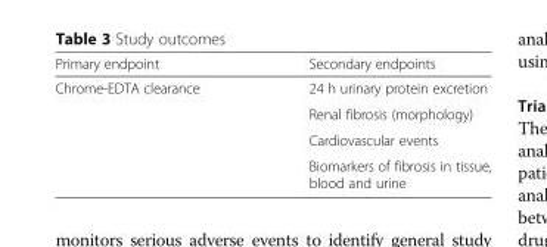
<table><thead><tr><td>Primary endpoint</td><td>Secondary endpoints</td></tr></thead><tbody><tr><td rowspan="4">Chrome-EDTA clearance</td><td>24 h urinary protein excretion</td></tr><tr><td>Renal fibrosis (morphology)</td></tr><tr><td>Cardiovascular events</td></tr><tr><td>Biomarkers of fibrosis in tissue, blood and urine</td></tr></tbody></table>